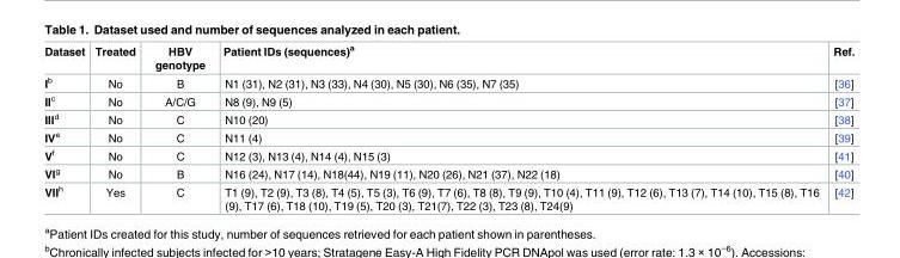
<table><thead><tr><td>Dataset</td><td>Treated</td><td>HBV genotype</td><td>Patient IDs (sequences)<sup>a</sup></td><td>Ref.</td></tr></thead><tbody><tr><td>I<sup>b</sup></td><td>No</td><td>B</td><td>N1 (31), N2 (31), N3 (33), N4 (30), N5 (30), N6 (35), N7 (35)</td><td>[36]</td></tr><tr><td>II<sup>c</sup></td><td>No</td><td>A/C/G</td><td>N8 (9), N9 (5)</td><td>[37]</td></tr><tr><td>III<sup>d</sup></td><td>No</td><td>C</td><td>N10 (20)</td><td>[38]</td></tr><tr><td>IV<sup>e</sup></td><td>No</td><td>C</td><td>N11 (4)</td><td>[39]</td></tr><tr><td>V<sup>f</sup></td><td>No</td><td>C</td><td>N12 (3), N13 (4), N14 (4), N15 (3)</td><td>[41]</td></tr><tr><td>VI<sup>g</sup></td><td>No</td><td>B</td><td>N16 (24), N17 (14), N18(44), N19 (11), N20 (26), N21 (37), N22 (18)</td><td>[40]</td></tr><tr><td>VII<sup>h</sup></td><td>Yes</td><td>C</td><td>T1 (9), T2 (9), T3 (8), T4 (5), T5 (3), T6 (9), T7 (6), T8 (8), T9 (9), T10 (4), T11 (9), T12 (6), T13 (7), T14 (10), T15 (8), T16 (9), T17 (6), T18 (10), T19 (5), T20 (3), T21(7), T22 (3), T23 (8), T24(9)</td><td>[42]</td></tr></tbody></table>